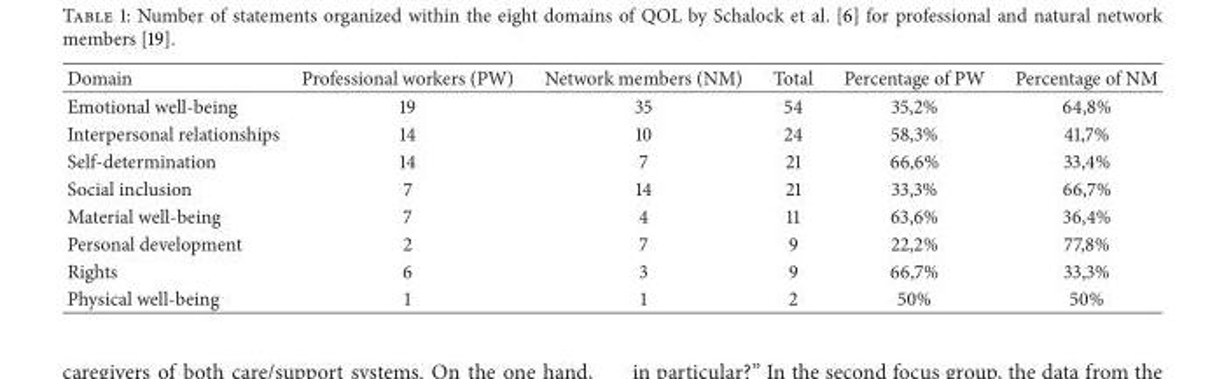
<table><thead><tr><td>Domain</td><td>Professional workers (PW)</td><td>Network members (NM)</td><td>Total</td><td>Percentage of PW</td><td>Percentage of NM</td></tr></thead><tbody><tr><td>Emotional well-being</td><td>19</td><td>35</td><td>54</td><td>35,2%</td><td>64,8%</td></tr><tr><td>Interpersonal relationships</td><td>14</td><td>10</td><td>24</td><td>58,3%</td><td>41,7%</td></tr><tr><td>Self-determination</td><td>14</td><td>7</td><td>21</td><td>66,6%</td><td>33,4%</td></tr><tr><td>Social inclusion</td><td>7</td><td>14</td><td>21</td><td>33,3%</td><td>66,7%</td></tr><tr><td>Material well-being</td><td>7</td><td>4</td><td>11</td><td>63,6%</td><td>36,4%</td></tr><tr><td>Personal development</td><td>2</td><td>7</td><td>9</td><td>22,2%</td><td>77,8%</td></tr><tr><td>Rights</td><td>6</td><td>3</td><td>9</td><td>66,7%</td><td>33,3%</td></tr><tr><td>Physical well-being</td><td>1</td><td>1</td><td>2</td><td>50%</td><td>50%</td></tr></tbody></table>